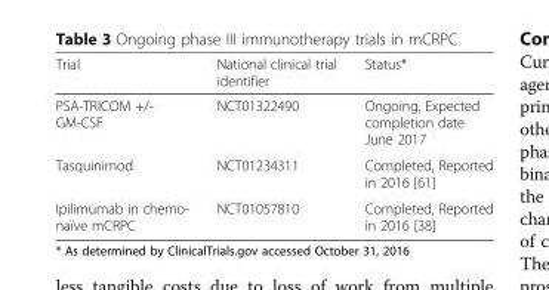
<table><thead><tr><td>Trial</td><td>National clinical trial identifier</td><td>Status*</td></tr></thead><tbody><tr><td>PSA-TRICOM +/- GM-CSF</td><td>NCT01322490</td><td>Ongoing, Expected completion date June 2017</td></tr><tr><td>Tasquinimod</td><td>NCT01234311</td><td>Completed, Reported in 2016 [61]</td></tr><tr><td>Ipilimumab in chemo- naïve mCRPC</td><td>NCT01057810</td><td>Completed, Reported in 2016 [38]</td></tr></tbody></table>